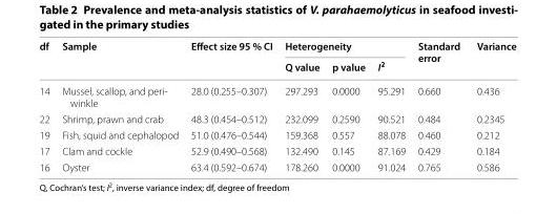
<table><thead><tr><td rowspan="2">df</td><td rowspan="2">Sample</td><td rowspan="2">Effect size 95 % CI</td><td colspan="3">Heterogeneity</td><td rowspan="2">Standard error</td><td rowspan="2">Variance</td></tr><tr><td>Q value</td><td>p value</td><td>I<sup>2</sup></td></tr></thead><tbody><tr><td>14</td><td>Mussel, scallop, and peri- winkle</td><td>28.0 (0.255–0.307)</td><td>297.293</td><td>0.0000</td><td>95.291</td><td>0.660</td><td>0.436</td></tr><tr><td>22</td><td>Shrimp, prawn and crab</td><td>48.3 (0.454–0.512)</td><td>232.099</td><td>0.2590</td><td>90.521</td><td>0.484</td><td>0.2345</td></tr><tr><td>19</td><td>Fish, squid and cephalopod</td><td>51.0 (0.476–0.544)</td><td>159.368</td><td>0.557</td><td>88.078</td><td>0.460</td><td>0.212</td></tr><tr><td>17</td><td>Clam and cockle</td><td>52.9 (0.490–0.568)</td><td>132.490</td><td>0.145</td><td>87.169</td><td>0.429</td><td>0.184</td></tr><tr><td>16</td><td>Oyster</td><td>63.4 (0.592–0.674)</td><td>178.260</td><td>0.0000</td><td>91.024</td><td>0.765</td><td>0.586</td></tr></tbody></table>